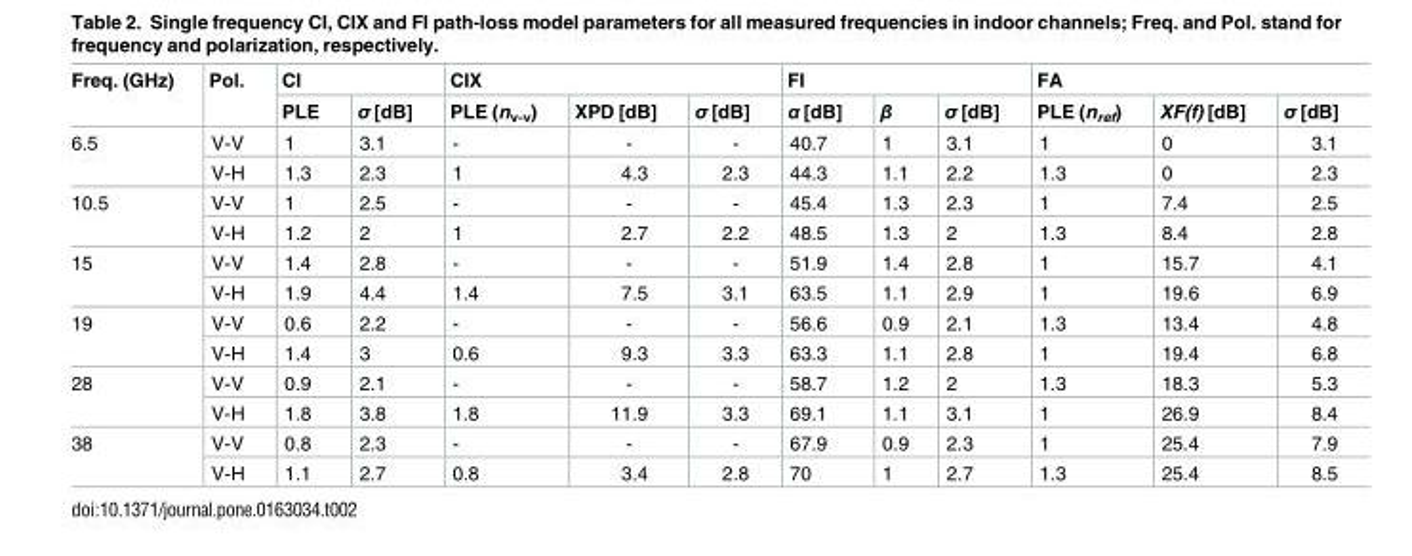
<table><thead><tr><td rowspan="2">Freq. (GHz)</td><td rowspan="2">Pol.</td><td colspan="2">CI</td><td colspan="3">CIX</td><td colspan="3">FI</td><td colspan="3">FA</td></tr><tr><td>PLE</td><td>σ [dB]</td><td>PLE (n<sub>v-v</sub>)</td><td>XPD [dB]</td><td>σ [dB]</td><td>α [dB]</td><td>β</td><td>σ [dB]</td><td>PLE (n<sub>ref</sub>)</td><td>XF(f) [dB]</td><td>σ [dB]</td></tr></thead><tbody><tr><td rowspan="2">6.5</td><td>V-V</td><td>1</td><td>3.1</td><td>-</td><td>-</td><td>-</td><td>40.7</td><td>1</td><td>3.1</td><td>1</td><td>0</td><td>3.1</td></tr><tr><td>V-H</td><td>1.3</td><td>2.3</td><td>1</td><td>4.3</td><td>2.3</td><td>44.3</td><td>1.1</td><td>2.2</td><td>1.3</td><td>0</td><td>2.3</td></tr><tr><td rowspan="2">10.5</td><td>V-V</td><td>1</td><td>2.5</td><td>-</td><td>-</td><td>-</td><td>45.4</td><td>1.3</td><td>2.3</td><td>1</td><td>7.4</td><td>2.5</td></tr><tr><td>V-H</td><td>1.2</td><td>2</td><td>1</td><td>2.7</td><td>2.2</td><td>48.5</td><td>1.3</td><td>2</td><td>1.3</td><td>8.4</td><td>2.8</td></tr><tr><td rowspan="2">15</td><td>V-V</td><td>1.4</td><td>2.8</td><td>-</td><td>-</td><td>-</td><td>51.9</td><td>1.4</td><td>2.8</td><td>1</td><td>15.7</td><td>4.1</td></tr><tr><td>V-H</td><td>1.9</td><td>4.4</td><td>1.4</td><td>7.5</td><td>3.1</td><td>63.5</td><td>1.1</td><td>2.9</td><td>1</td><td>19.6</td><td>6.9</td></tr><tr><td rowspan="2">19</td><td>V-V</td><td>0.6</td><td>2.2</td><td>-</td><td>-</td><td>-</td><td>56.6</td><td>0.9</td><td>2.1</td><td>1.3</td><td>13.4</td><td>4.8</td></tr><tr><td>V-H</td><td>1.4</td><td>3</td><td>0.6</td><td>9.3</td><td>3.3</td><td>63.3</td><td>1.1</td><td>2.8</td><td>1</td><td>19.4</td><td>6.8</td></tr><tr><td rowspan="2">28</td><td>V-V</td><td>0.9</td><td>2.1</td><td>-</td><td>-</td><td>-</td><td>58.7</td><td>1.2</td><td>2</td><td>1.3</td><td>18.3</td><td>5.3</td></tr><tr><td>V-H</td><td>1.8</td><td>3.8</td><td>1.8</td><td>11.9</td><td>3.3</td><td>69.1</td><td>1.1</td><td>3.1</td><td>1</td><td>26.9</td><td>8.4</td></tr><tr><td rowspan="2">38</td><td>V-V</td><td>0.8</td><td>2.3</td><td>-</td><td>-</td><td>-</td><td>67.9</td><td>0.9</td><td>2.3</td><td>1</td><td>25.4</td><td>7.9</td></tr><tr><td>V-H</td><td>1.1</td><td>2.7</td><td>0.8</td><td>3.4</td><td>2.8</td><td>70</td><td>1</td><td>2.7</td><td>1.3</td><td>25.4</td><td>8.5</td></tr></tbody></table>